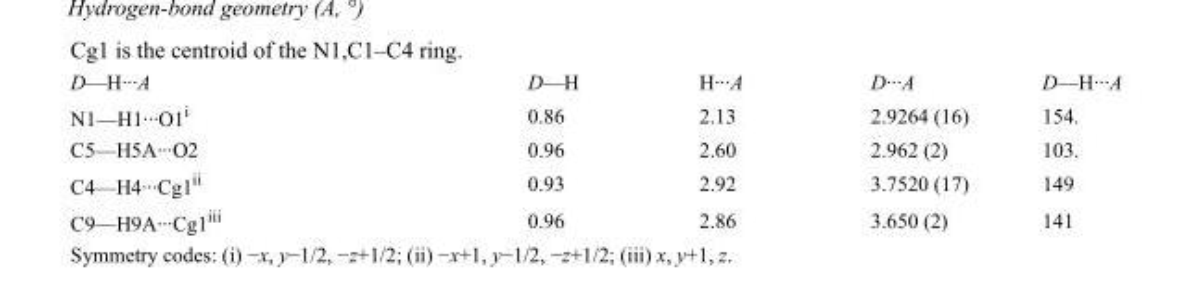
<table><tbody><tr><td>D—H···A</td><td>D—H</td><td>H···A</td><td>D···A</td><td>D—H···A</td></tr><tr><td>N1—H1···O1<sup>i</sup></td><td>0.86</td><td>2.13</td><td>2.9264 (16)</td><td>154.</td></tr><tr><td>C5—H5A···O2</td><td>0.96</td><td>2.60</td><td>2.962 (2)</td><td>103.</td></tr><tr><td>C4—H4···Cg1<sup>ii</sup></td><td>0.93</td><td>2.92</td><td>3.7520 (17)</td><td>149</td></tr><tr><td>C9—H9A···Cg1<sup>iii</sup></td><td>0.96</td><td>2.86</td><td>3.650 (2)</td><td>141</td></tr></tbody></table>